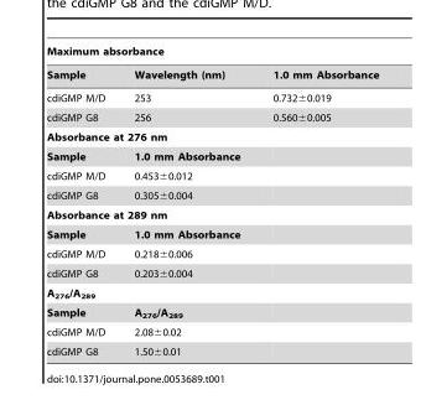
<table><thead><tr><td colspan="3">Maximum absorbance</td></tr><tr><td>Sample</td><td>Wavelength (nm)</td><td>1.0 mm Absorbance</td></tr></thead><tbody><tr><td>cdiGMP M/D</td><td>253</td><td>0.732±0.019</td></tr><tr><td>cdiGMP G8</td><td>256</td><td>0.560±0.005</td></tr><tr><td colspan="3">Absorbance at 276 nm</td></tr><tr><td>Sample</td><td>1.0 mm Absorbance</td><td></td></tr><tr><td>cdiGMP M/D</td><td>0.453±0.012</td><td></td></tr><tr><td>cdiGMP G8</td><td>0.305±0.004</td><td></td></tr><tr><td colspan="3">Absorbance at 289 nm</td></tr><tr><td>Sample</td><td>1.0 mm Absorbance</td><td></td></tr><tr><td>cdiGMP M/D</td><td>0.218±0.006</td><td></td></tr><tr><td>cdiGMP G8</td><td>0.203±0.004</td><td></td></tr><tr><td colspan="3">A<sub>276</sub>/A<sub>289</sub></td></tr><tr><td>Sample</td><td>A<sub>276</sub>/A<sub>289</sub></td><td></td></tr><tr><td>cdiGMP M/D</td><td>2.08±0.02</td><td></td></tr><tr><td>cdiGMP G8</td><td>1.50±0.01</td><td></td></tr></tbody></table>